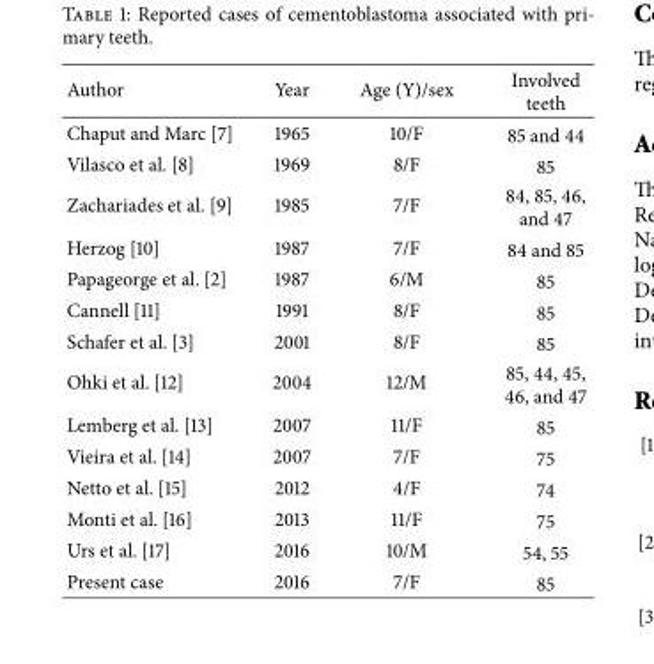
<table><thead><tr><td>Author</td><td>Year</td><td>Age (Y)/sex</td><td>Involved teeth</td></tr></thead><tbody><tr><td>Chaput and Marc [7]</td><td>1965</td><td>10/F</td><td>85 and 44</td></tr><tr><td>Vilasco et al. [8]</td><td>1969</td><td>8/F</td><td>85</td></tr><tr><td>Zachariades et al. [9]</td><td>1985</td><td>7/F</td><td>84, 85, 46, and 47</td></tr><tr><td>Herzog [10]</td><td>1987</td><td>7/F</td><td>84 and 85</td></tr><tr><td>Papageorge et al. [2]</td><td>1987</td><td>6/M</td><td>85</td></tr><tr><td>Cannell [11]</td><td>1991</td><td>8/F</td><td>85</td></tr><tr><td>Schafer et al. [3]</td><td>2001</td><td>8/F</td><td>85</td></tr><tr><td>Ohki et al. [12]</td><td>2004</td><td>12/M</td><td>85, 44, 45, 46, and 47</td></tr><tr><td>Lemberg et al. [13]</td><td>2007</td><td>11/F</td><td>85</td></tr><tr><td>Vieira et al. [14]</td><td>2007</td><td>7/F</td><td>75</td></tr><tr><td>Netto et al. [15]</td><td>2012</td><td>4/F</td><td>74</td></tr><tr><td>Monti et al. [16]</td><td>2013</td><td>11/F</td><td>75</td></tr><tr><td>Urs et al. [17]</td><td>2016</td><td>10/M</td><td>54, 55</td></tr><tr><td>Present case</td><td>2016</td><td>7/F</td><td>85</td></tr></tbody></table>